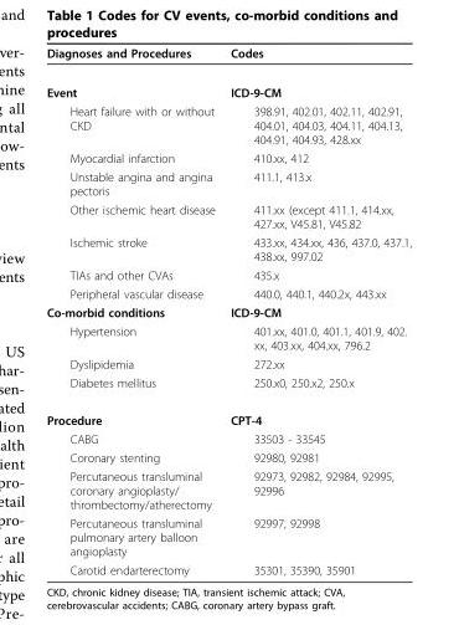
<table><thead><tr><td>Diagnoses and Procedures</td><td>Codes</td></tr></thead><tbody><tr><td>Event</td><td>ICD-9-CM</td></tr><tr><td>Heart failure with or without CKD</td><td>398.91, 402.01, 402.11, 402.91, 404.01, 404.03, 404.11, 404.13, 404.91, 404.93, 428.xx</td></tr><tr><td>Myocardial infarction</td><td>410.xx, 412</td></tr><tr><td>Unstable angina and angina pectoris</td><td>411.1, 413.x</td></tr><tr><td>Other ischemic heart disease</td><td>411.xx (except 411.1, 414.xx, 427.xx, V45.81, V45.82</td></tr><tr><td>Ischemic stroke</td><td>433.xx, 434.xx, 436, 437.0, 437.1, 438.xx, 997.02</td></tr><tr><td>TIAs and other CVAs</td><td>435.x</td></tr><tr><td>Peripheral vascular disease</td><td>440.0, 440.1, 440.2x, 443.xx</td></tr><tr><td>Co-morbid conditions</td><td>ICD-9-CM</td></tr><tr><td>Hypertension</td><td>401.xx, 401.0, 401.1, 401.9, 402. xx, 403.xx, 404.xx, 796.2</td></tr><tr><td>Dyslipidemia</td><td>272.xx</td></tr><tr><td>Diabetes mellitus</td><td>250.x0, 250.x2, 250.x</td></tr><tr><td>Procedure</td><td>CPT-4</td></tr><tr><td>CABG</td><td>33503 - 33545</td></tr><tr><td>Coronary stenting</td><td>92980, 92981</td></tr><tr><td>Percutaneous transluminal coronary angioplasty/ thrombectomy/atherectomy</td><td>92973, 92982, 92984, 92995, 92996</td></tr><tr><td>Percutaneous transluminal pulmonary artery balloon angioplasty</td><td>92997, 92998</td></tr><tr><td>Carotid endarterectomy</td><td>35301, 35390, 35901</td></tr></tbody></table>